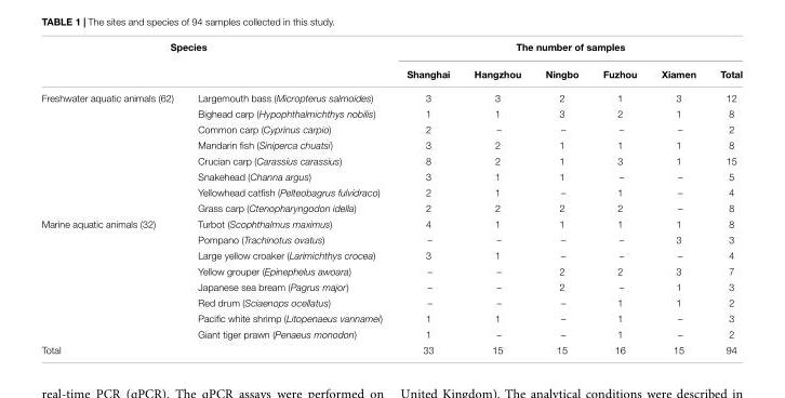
<table><thead><tr><td colspan="2">Species</td><td colspan="6">The number of samples</td></tr><tr><td></td><td></td><td>Shanghai</td><td>Hangzhou</td><td>Ningbo</td><td>Fuzhou</td><td>Xiamen</td><td>Total</td></tr></thead><tbody><tr><td rowspan="8">Freshwater aquatic animals (62)</td><td>Largemouth bass (Micropterus salmoides)</td><td>3</td><td>3</td><td>2</td><td>1</td><td>3</td><td>12</td></tr><tr><td>Bighead carp (Hypophthalmichthys nobilis)</td><td>1</td><td>1</td><td>3</td><td>2</td><td>1</td><td>8</td></tr><tr><td>Common carp (Cyprinus carpio)</td><td>2</td><td>–</td><td>–</td><td>–</td><td>–</td><td>2</td></tr><tr><td>Mandarin fish (Siniperca chuatsi)</td><td>3</td><td>2</td><td>1</td><td>1</td><td>1</td><td>8</td></tr><tr><td>Crucian carp (Carassius carassius)</td><td>8</td><td>2</td><td>1</td><td>3</td><td>1</td><td>15</td></tr><tr><td>Snakehead (Channa argus)</td><td>3</td><td>1</td><td>1</td><td>–</td><td>–</td><td>5</td></tr><tr><td>Yellowhead catfish (Pelteobagrus fulvidraco)</td><td>2</td><td>1</td><td>–</td><td>1</td><td>–</td><td>4</td></tr><tr><td>Grass carp (Ctenopharyngodon idella)</td><td>2</td><td>2</td><td>2</td><td>2</td><td>–</td><td>8</td></tr><tr><td rowspan="8">Marine aquatic animals (32)</td><td>Turbot (Scophthalmus maximus)</td><td>4</td><td>1</td><td>1</td><td>1</td><td>1</td><td>8</td></tr><tr><td>Pompano (Trachinotus ovatus)</td><td>–</td><td>–</td><td>–</td><td>–</td><td>3</td><td>3</td></tr><tr><td>Large yellow croaker (Larimichthys crocea)</td><td>3</td><td>1</td><td>–</td><td>–</td><td>–</td><td>4</td></tr><tr><td>Yellow grouper (Epinephelus awoara)</td><td>–</td><td>–</td><td>2</td><td>2</td><td>3</td><td>7</td></tr><tr><td>Japanese sea bream (Pagrus major)</td><td>–</td><td>–</td><td>2</td><td>–</td><td>1</td><td>3</td></tr><tr><td>Red drum (Sciaenops ocellatus)</td><td>–</td><td>–</td><td>–</td><td>1</td><td>1</td><td>2</td></tr><tr><td>Pacific white shrimp (Litopenaeus vannamei)</td><td>1</td><td>1</td><td>–</td><td>1</td><td>–</td><td>3</td></tr><tr><td>Giant tiger prawn (Penaeus monodon)</td><td>1</td><td>–</td><td>–</td><td>1</td><td>–</td><td>2</td></tr><tr><td>Total</td><td></td><td>33</td><td>15</td><td>15</td><td>16</td><td>15</td><td>94</td></tr></tbody></table>